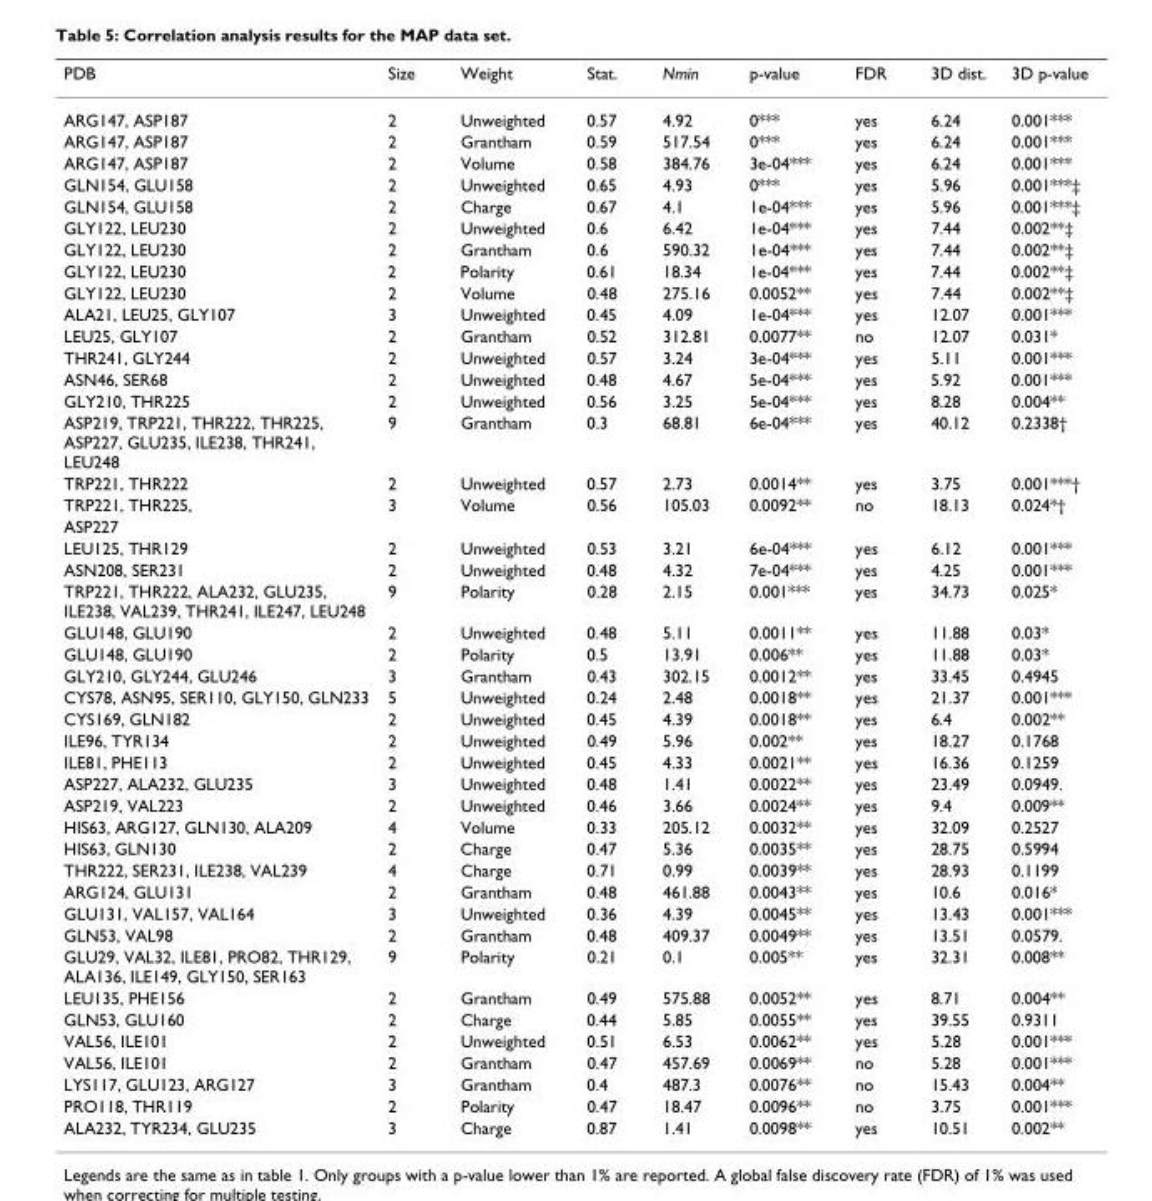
<table><thead><tr><td>PDB</td><td>Size</td><td>Weight</td><td>Stat.</td><td>Nmin</td><td>p-value</td><td>FDR</td><td>3D dist.</td><td>3D p-value</td></tr></thead><tbody><tr><td>ARG147, ASP187</td><td>2</td><td>Unweighted</td><td>0.57</td><td>4.92</td><td>0***</td><td>yes</td><td>6.24</td><td>0.001***</td></tr><tr><td>ARG147, ASP187</td><td>2</td><td>Grantham</td><td>0.59</td><td>517.54</td><td>0***</td><td>yes</td><td>6.24</td><td>0.001***</td></tr><tr><td>ARG147, ASP187</td><td>2</td><td>Volume</td><td>0.58</td><td>384.76</td><td>3e-04***</td><td>yes</td><td>6.24</td><td>0.001***</td></tr><tr><td>GLN154, GLU158</td><td>2</td><td>Unweighted</td><td>0.65</td><td>4.93</td><td>0***</td><td>yes</td><td>5.96</td><td>0.001***‡</td></tr><tr><td>GLN154, GLU158</td><td>2</td><td>Charge</td><td>0.67</td><td>4.1</td><td>1e-04***</td><td>yes</td><td>5.96</td><td>0.001***‡</td></tr><tr><td>GLY122, LEU230</td><td>2</td><td>Unweighted</td><td>0.6</td><td>6.42</td><td>1e-04***</td><td>yes</td><td>7.44</td><td>0.002**‡</td></tr><tr><td>GLY122, LEU230</td><td>2</td><td>Grantham</td><td>0.6</td><td>590.32</td><td>1e-04***</td><td>yes</td><td>7.44</td><td>0.002**‡</td></tr><tr><td>GLY122, LEU230</td><td>2</td><td>Polarity</td><td>0.61</td><td>18.34</td><td>1e-04***</td><td>yes</td><td>7.44</td><td>0.002**‡</td></tr><tr><td>GLY122, LEU230</td><td>2</td><td>Volume</td><td>0.48</td><td>275.16</td><td>0.0052**</td><td>yes</td><td>7.44</td><td>0.002**‡</td></tr><tr><td>ALA21, LEU25, GLY107</td><td>3</td><td>Unweighted</td><td>0.45</td><td>4.09</td><td>1e-04***</td><td>yes</td><td>12.07</td><td>0.001***</td></tr><tr><td>LEU25, GLY107</td><td>2</td><td>Grantham</td><td>0.52</td><td>312.81</td><td>0.0077**</td><td>no</td><td>12.07</td><td>0.031*</td></tr><tr><td>THR241, GLY244</td><td>2</td><td>Unweighted</td><td>0.57</td><td>3.24</td><td>3e-04***</td><td>yes</td><td>5.11</td><td>0.001***</td></tr><tr><td>ASN46, SER68</td><td>2</td><td>Unweighted</td><td>0.48</td><td>4.67</td><td>5e-04***</td><td>yes</td><td>5.92</td><td>0.001***</td></tr><tr><td>GLY210, THR225</td><td>2</td><td>Unweighted</td><td>0.56</td><td>3.25</td><td>5e-04***</td><td>yes</td><td>8.28</td><td>0.004**</td></tr><tr><td>ASP219, TRP221, THR222, THR225, ASP227, GLU235, ILE238, THR241, LEU248</td><td>9</td><td>Grantham</td><td>0.3</td><td>68.81</td><td>6e-04***</td><td>yes</td><td>40.12</td><td>0.2338†</td></tr><tr><td>TRP221, THR222</td><td>2</td><td>Unweighted</td><td>0.57</td><td>2.73</td><td>0.0014**</td><td>yes</td><td>3.75</td><td>0.001***†</td></tr><tr><td>TRP221, THR225,</td><td>3</td><td>Volume</td><td>0.56</td><td>105.03</td><td>0.0092**</td><td>no</td><td>18.13</td><td>0.024*†</td></tr><tr><td colspan="9">ASP227</td></tr><tr><td>LEU125, THR129</td><td>2</td><td>Unweighted</td><td>0.53</td><td>3.21</td><td>6e-04***</td><td>yes</td><td>6.12</td><td>0.001***</td></tr><tr><td>ASN208, SER231</td><td>2</td><td>Unweighted</td><td>0.48</td><td>4.32</td><td>7e-04***</td><td>yes</td><td>4.25</td><td>0.001***</td></tr><tr><td>TRP221, THR222, ALA232, GLU235, ILE238, VAL239, THR241, ILE247, LEU248</td><td>9</td><td>Polarity</td><td>0.28</td><td>2.15</td><td>0.001***</td><td>yes</td><td>34.73</td><td>0.025*</td></tr><tr><td>GLU148, GLU190</td><td>2</td><td>Unweighted</td><td>0.48</td><td>5.11</td><td>0.0011**</td><td>yes</td><td>11.88</td><td>0.03*</td></tr><tr><td>GLU148, GLU190</td><td>2</td><td>Polarity</td><td>0.5</td><td>13.91</td><td>0.006**</td><td>yes</td><td>11.88</td><td>0.03*</td></tr><tr><td>GLY210, GLY244, GLU246</td><td>3</td><td>Grantham</td><td>0.43</td><td>302.15</td><td>0.0012**</td><td>yes</td><td>33.45</td><td>0.4945</td></tr><tr><td>CYS78, ASN95, SER110, GLY150, GLN233</td><td>5</td><td>Unweighted</td><td>0.24</td><td>2.48</td><td>0.0018**</td><td>yes</td><td>21.37</td><td>0.001***</td></tr><tr><td>CYS169, GLN182</td><td>2</td><td>Unweighted</td><td>0.45</td><td>4.39</td><td>0.0018**</td><td>yes</td><td>6.4</td><td>0.002**</td></tr><tr><td>ILE96, TYR134</td><td>2</td><td>Unweighted</td><td>0.49</td><td>5.96</td><td>0.002**</td><td>yes</td><td>18.27</td><td>0.1768</td></tr><tr><td>ILE81, PHE113</td><td>2</td><td>Unweighted</td><td>0.45</td><td>4.33</td><td>0.0021**</td><td>yes</td><td>16.36</td><td>0.1259</td></tr><tr><td>ASP227, ALA232, GLU235</td><td>3</td><td>Unweighted</td><td>0.48</td><td>1.41</td><td>0.0022**</td><td>yes</td><td>23.49</td><td>0.0949.</td></tr><tr><td>ASP219, VAL223</td><td>2</td><td>Unweighted</td><td>0.46</td><td>3.66</td><td>0.0024**</td><td>yes</td><td>9.4</td><td>0.009**</td></tr><tr><td>HIS63, ARG127, GLN130, ALA209</td><td>4</td><td>Volume</td><td>0.33</td><td>205.12</td><td>0.0032**</td><td>yes</td><td>32.09</td><td>0.2527</td></tr><tr><td>HIS63, GLN130</td><td>2</td><td>Charge</td><td>0.47</td><td>5.36</td><td>0.0035**</td><td>yes</td><td>28.75</td><td>0.5994</td></tr><tr><td>THR222, SER231, ILE238, VAL239</td><td>4</td><td>Charge</td><td>0.71</td><td>0.99</td><td>0.0039**</td><td>yes</td><td>28.93</td><td>0.1199</td></tr><tr><td>ARG124, GLU131</td><td>2</td><td>Grantham</td><td>0.48</td><td>461.88</td><td>0.0043**</td><td>yes</td><td>10.6</td><td>0.016*</td></tr><tr><td>GLU131, VAL157, VAL164</td><td>3</td><td>Unweighted</td><td>0.36</td><td>4.39</td><td>0.0045**</td><td>yes</td><td>13.43</td><td>0.001***</td></tr><tr><td>GLN53, VAL98</td><td>2</td><td>Grantham</td><td>0.48</td><td>409.37</td><td>0.0049**</td><td>yes</td><td>13.51</td><td>0.0579.</td></tr><tr><td>GLU29, VAL32, ILE81, PRO82, THR129, ALA136, ILE149, GLY150, SER163</td><td>9</td><td>Polarity</td><td>0.21</td><td>0.1</td><td>0.005**</td><td>yes</td><td>32.31</td><td>0.008**</td></tr><tr><td>LEU135, PHE156</td><td>2</td><td>Grantham</td><td>0.49</td><td>575.88</td><td>0.0052**</td><td>yes</td><td>8.71</td><td>0.004**</td></tr><tr><td>GLN53, GLU160</td><td>2</td><td>Charge</td><td>0.44</td><td>5.85</td><td>0.0055**</td><td>yes</td><td>39.55</td><td>0.9311</td></tr><tr><td>VAL56, ILE101</td><td>2</td><td>Unweighted</td><td>0.51</td><td>6.53</td><td>0.0062**</td><td>yes</td><td>5.28</td><td>0.001***</td></tr><tr><td>VAL56, ILE101</td><td>2</td><td>Grantham</td><td>0.47</td><td>457.69</td><td>0.0069**</td><td>no</td><td>5.28</td><td>0.001***</td></tr><tr><td>LYS117, GLU123, ARG127</td><td>3</td><td>Grantham</td><td>0.4</td><td>487.3</td><td>0.0076**</td><td>no</td><td>15.43</td><td>0.004**</td></tr><tr><td>PRO118, THR119</td><td>2</td><td>Polarity</td><td>0.47</td><td>18.47</td><td>0.0096**</td><td>no</td><td>3.75</td><td>0.001***</td></tr><tr><td>ALA232, TYR234, GLU235</td><td>3</td><td>Charge</td><td>0.87</td><td>1.41</td><td>0.0098**</td><td>yes</td><td>10.51</td><td>0.002**</td></tr></tbody></table>